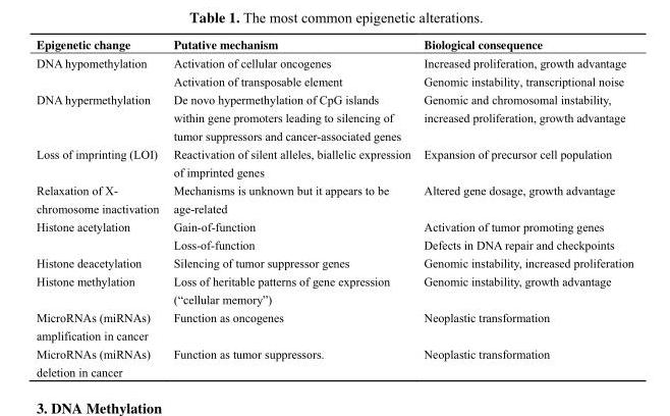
<table><thead><tr><td>Epigenetic change</td><td>Putative mechanism</td><td>Biological consequence</td></tr></thead><tbody><tr><td rowspan="2">DNA hypomethylation</td><td>Activation of cellular oncogenes</td><td>Increased proliferation, growth advantage</td></tr><tr><td>Activation of transposable element</td><td>Genomic instability, transcriptional noise</td></tr><tr><td>DNA hypermethylation</td><td>De novo hypermethylation of CpG islands within gene promoters leading to silencing of tumor suppressors and cancer-associated genes</td><td>Genomic and chromosomal instability, increased proliferation, growth advantage</td></tr><tr><td>Loss of imprinting (LOI)</td><td>Reactivation of silent alleles, biallelic expression of imprinted genes</td><td>Expansion of precursor cell population</td></tr><tr><td>Relaxation of X- chromosome inactivation</td><td>Mechanisms is unknown but it appears to be age-related</td><td>Altered gene dosage, growth advantage</td></tr><tr><td rowspan="2">Histone acetylation</td><td>Gain-of-function</td><td>Activation of tumor promoting genes</td></tr><tr><td>Loss-of-function</td><td>Defects in DNA repair and checkpoints</td></tr><tr><td>Histone deacetylation</td><td>Silencing of tumor suppressor genes</td><td>Genomic instability, increased proliferation</td></tr><tr><td>Histone methylation</td><td>Loss of heritable patterns of gene expression (“cellular memory”)</td><td>Genomic instability, growth advantage</td></tr><tr><td>MicroRNAs (miRNAs) amplification in cancer</td><td>Function as oncogenes</td><td>Neoplastic transformation</td></tr><tr><td>MicroRNAs (miRNAs) deletion in cancer</td><td>Function as tumor suppressors.</td><td>Neoplastic transformation</td></tr></tbody></table>